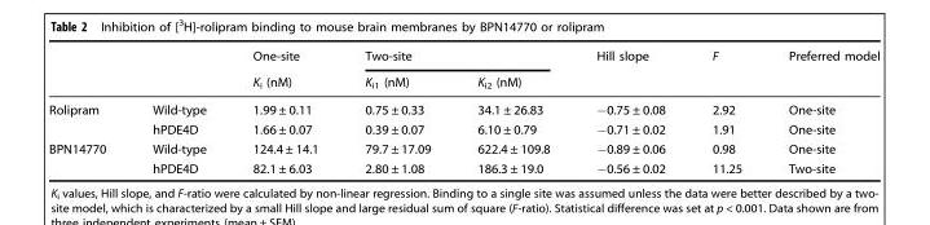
<table><thead><tr><td rowspan="2"></td><td rowspan="2"></td><td rowspan="2">One-site Ki (nM)</td><td colspan="2">Two-site</td><td rowspan="2">Hill slope</td><td rowspan="2">F</td><td rowspan="2">Preferred model</td></tr><tr><td>K<sub>i1</sub> (nM)</td><td>K<sub>i2</sub> (nM)</td></tr></thead><tbody><tr><td rowspan="2">Rolipram</td><td>Wild-type</td><td>1.99 ± 0.11</td><td>0.75 ± 0.33</td><td>34.1 ± 26.83</td><td>−0.75 ± 0.08</td><td>2.92</td><td>One-site</td></tr><tr><td>hPDE4D</td><td>1.66 ± 0.07</td><td>0.39 ± 0.07</td><td>6.10 ± 0.79</td><td>−0.71 ± 0.02</td><td>1.91</td><td>One-site</td></tr><tr><td rowspan="2">BPN14770</td><td>Wild-type</td><td>124.4 ± 14.1</td><td>79.7 ± 17.09</td><td>622.4 ± 109.8</td><td>−0.89 ± 0.06</td><td>0.98</td><td>One-site</td></tr><tr><td>hPDE4D</td><td>82.1 ± 6.03</td><td>2.80 ± 1.08</td><td>186.3 ± 19.0</td><td>−0.56 ± 0.02</td><td>11.25</td><td>Two-site</td></tr></tbody></table>